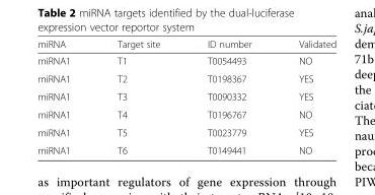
<table><thead><tr><td>miRNA</td><td>Target site</td><td>ID number</td><td>Validated</td></tr></thead><tbody><tr><td>miRNA1</td><td>T1</td><td>T0054493</td><td>NO</td></tr><tr><td>miRNA1</td><td>T2</td><td>T0198367</td><td>YES</td></tr><tr><td>miRNA1</td><td>T3</td><td>T0090332</td><td>YES</td></tr><tr><td>miRNA1</td><td>T4</td><td>T0196767</td><td>NO</td></tr><tr><td>miRNA1</td><td>T5</td><td>T0023779</td><td>YES</td></tr><tr><td>miRNA1</td><td>T6</td><td>T0149441</td><td>NO</td></tr></tbody></table>